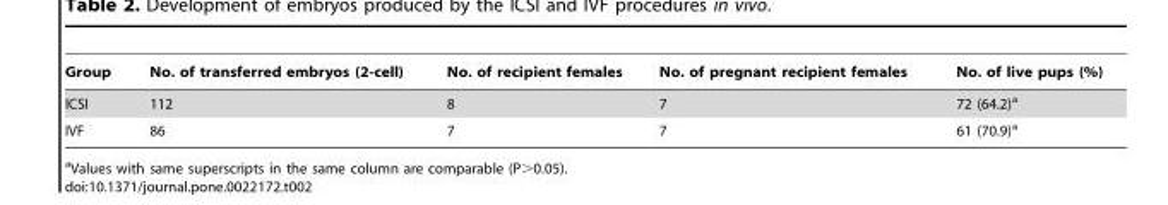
<table><thead><tr><td>Group</td><td>No. of transferred embryos (2-cell)</td><td>No. of recipient females</td><td>No. of pregnant recipient females</td><td>No. of live pups (%)</td></tr></thead><tbody><tr><td>ICSI</td><td>112</td><td>8</td><td>7</td><td>72 (64.2)<sup>a</sup></td></tr><tr><td>IVF</td><td>86</td><td>7</td><td>7</td><td>61 (70.9)<sup>a</sup></td></tr></tbody></table>